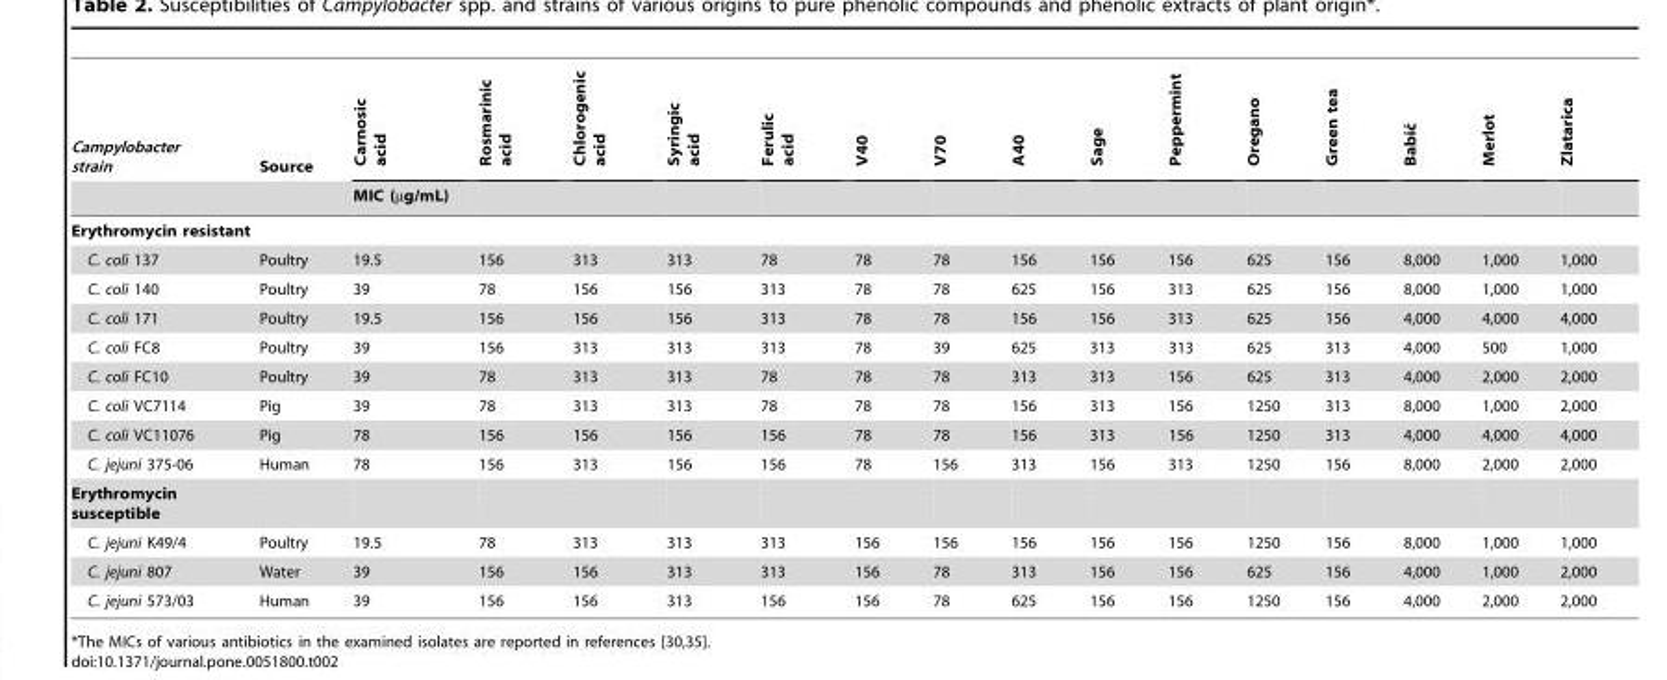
<table><thead><tr><td rowspan="2">Campylobacter strain</td><td rowspan="2">Source</td><td rowspan="2">Carnosic acid MIC (µg/mL)</td><td rowspan="2">Rosmarinic acid</td><td rowspan="2">Chlorogenic acid</td><td rowspan="2">Syringic acid</td><td rowspan="2">Ferulic acid</td><td rowspan="2">V40</td><td rowspan="2">V70</td><td rowspan="2">A40</td><td rowspan="2">Sage</td><td rowspan="2">Peppermint</td><td rowspan="2">Oregano</td><td rowspan="2">Green tea</td><td rowspan="2">Babic´</td><td rowspan="2">Merlot</td><td rowspan="2">Zlatarica</td></tr><tr></tr></thead><tbody><tr><td colspan="17">Erythromycin resistant</td></tr><tr><td>C. coli 137</td><td>Poultry</td><td>19.5</td><td>156</td><td>313</td><td>313</td><td>78</td><td>78</td><td>78</td><td>156</td><td>156</td><td>156</td><td>625</td><td>156</td><td>8,000</td><td>1,000</td><td>1,000</td></tr><tr><td>C. coli 140</td><td>Poultry</td><td>39</td><td>78</td><td>156</td><td>156</td><td>313</td><td>78</td><td>78</td><td>625</td><td>156</td><td>313</td><td>625</td><td>156</td><td>8,000</td><td>1,000</td><td>1,000</td></tr><tr><td>C. coli 171</td><td>Poultry</td><td>19.5</td><td>156</td><td>156</td><td>156</td><td>313</td><td>78</td><td>78</td><td>156</td><td>156</td><td>313</td><td>625</td><td>156</td><td>4,000</td><td>4,000</td><td>4,000</td></tr><tr><td>C. coli FC8</td><td>Poultry</td><td>39</td><td>156</td><td>313</td><td>313</td><td>313</td><td>78</td><td>39</td><td>625</td><td>313</td><td>313</td><td>625</td><td>313</td><td>4,000</td><td>500</td><td>1,000</td></tr><tr><td>C. coli FC10</td><td>Poultry</td><td>39</td><td>78</td><td>313</td><td>313</td><td>78</td><td>78</td><td>78</td><td>313</td><td>313</td><td>156</td><td>625</td><td>313</td><td>4,000</td><td>2,000</td><td>2,000</td></tr><tr><td>C. coli VC7114</td><td>Pig</td><td>39</td><td>78</td><td>313</td><td>313</td><td>78</td><td>78</td><td>78</td><td>156</td><td>313</td><td>156</td><td>1250</td><td>313</td><td>8,000</td><td>1,000</td><td>2,000</td></tr><tr><td>C. coli VC11076</td><td>Pig</td><td>78</td><td>156</td><td>156</td><td>156</td><td>156</td><td>78</td><td>78</td><td>156</td><td>313</td><td>156</td><td>1250</td><td>313</td><td>4,000</td><td>4,000</td><td>4,000</td></tr><tr><td>C. jejuni 375-06</td><td>Human</td><td>78</td><td>156</td><td>313</td><td>156</td><td>156</td><td>78</td><td>156</td><td>313</td><td>156</td><td>313</td><td>1250</td><td>156</td><td>8,000</td><td>2,000</td><td>2,000</td></tr><tr><td colspan="17">Erythromycin susceptible</td></tr><tr><td>C. jejuni K49/4</td><td>Poultry</td><td>19.5</td><td>78</td><td>313</td><td>313</td><td>313</td><td>156</td><td>156</td><td>156</td><td>156</td><td>156</td><td>1250</td><td>156</td><td>8,000</td><td>1,000</td><td>1,000</td></tr><tr><td>C. jejuni 807</td><td>Water</td><td>39</td><td>156</td><td>156</td><td>313</td><td>313</td><td>156</td><td>78</td><td>313</td><td>156</td><td>156</td><td>625</td><td>156</td><td>4,000</td><td>1,000</td><td>2,000</td></tr><tr><td>C. jejuni 573/03</td><td>Human</td><td>39</td><td>156</td><td>156</td><td>313</td><td>156</td><td>156</td><td>78</td><td>625</td><td>156</td><td>156</td><td>1250</td><td>156</td><td>4,000</td><td>2,000</td><td>2,000</td></tr></tbody></table>